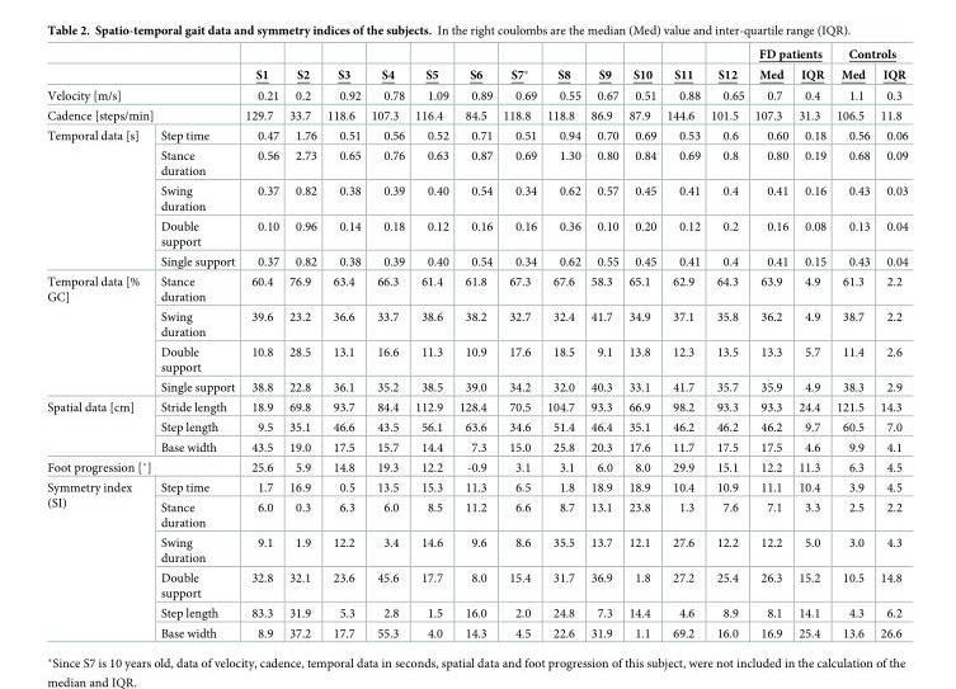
<table><thead><tr><td rowspan="2"></td><td rowspan="2"></td><td rowspan="2">S1</td><td rowspan="2">S2</td><td rowspan="2">S3</td><td rowspan="2">S4</td><td rowspan="2">S5</td><td rowspan="2">S6</td><td rowspan="2">S7*</td><td rowspan="2">S8</td><td rowspan="2">S9</td><td rowspan="2">S10</td><td rowspan="2">S11</td><td rowspan="2">S12</td><td colspan="2">FD patients</td><td colspan="2">Controls</td></tr><tr><td>Med</td><td>IQR</td><td>Med</td><td>IQR</td></tr></thead><tbody><tr><td colspan="2">Velocity [m/s]</td><td>0.21</td><td>0.2</td><td>0.92</td><td>0.78</td><td>1.09</td><td>0.89</td><td>0.69</td><td>0.55</td><td>0.67</td><td>0.51</td><td>0.88</td><td>0.65</td><td>0.7</td><td>0.4</td><td>1.1</td><td>0.3</td></tr><tr><td colspan="2">Cadence [steps/min]</td><td>129.7</td><td>33.7</td><td>118.6</td><td>107.3</td><td>116.4</td><td>84.5</td><td>118.8</td><td>118.8</td><td>86.9</td><td>87.9</td><td>144.6</td><td>101.5</td><td>107.3</td><td>31.3</td><td>106.5</td><td>11.8</td></tr><tr><td rowspan="5">Temporal data [s]</td><td>Step time</td><td>0.47</td><td>1.76</td><td>0.51</td><td>0.56</td><td>0.52</td><td>0.71</td><td>0.51</td><td>0.94</td><td>0.70</td><td>0.69</td><td>0.53</td><td>0.6</td><td>0.60</td><td>0.18</td><td>0.56</td><td>0.06</td></tr><tr><td>Stance duration</td><td>0.56</td><td>2.73</td><td>0.65</td><td>0.76</td><td>0.63</td><td>0.87</td><td>0.69</td><td>1.30</td><td>0.80</td><td>0.84</td><td>0.69</td><td>0.8</td><td>0.80</td><td>0.19</td><td>0.68</td><td>0.09</td></tr><tr><td>Swing duration</td><td>0.37</td><td>0.82</td><td>0.38</td><td>0.39</td><td>0.40</td><td>0.54</td><td>0.34</td><td>0.62</td><td>0.57</td><td>0.45</td><td>0.41</td><td>0.4</td><td>0.41</td><td>0.16</td><td>0.43</td><td>0.03</td></tr><tr><td>Double support</td><td>0.10</td><td>0.96</td><td>0.14</td><td>0.18</td><td>0.12</td><td>0.16</td><td>0.16</td><td>0.36</td><td>0.10</td><td>0.20</td><td>0.12</td><td>0.2</td><td>0.16</td><td>0.08</td><td>0.13</td><td>0.04</td></tr><tr><td>Single support</td><td>0.37</td><td>0.82</td><td>0.38</td><td>0.39</td><td>0.40</td><td>0.54</td><td>0.34</td><td>0.62</td><td>0.55</td><td>0.45</td><td>0.41</td><td>0.4</td><td>0.41</td><td>0.15</td><td>0.43</td><td>0.04</td></tr><tr><td rowspan="4">Temporal data [% GC]</td><td>Stance duration</td><td>60.4</td><td>76.9</td><td>63.4</td><td>66.3</td><td>61.4</td><td>61.8</td><td>67.3</td><td>67.6</td><td>58.3</td><td>65.1</td><td>62.9</td><td>64.3</td><td>63.9</td><td>4.9</td><td>61.3</td><td>2.2</td></tr><tr><td>Swing duration</td><td>39.6</td><td>23.2</td><td>36.6</td><td>33.7</td><td>38.6</td><td>38.2</td><td>32.7</td><td>32.4</td><td>41.7</td><td>34.9</td><td>37.1</td><td>35.8</td><td>36.2</td><td>4.9</td><td>38.7</td><td>2.2</td></tr><tr><td>Double support</td><td>10.8</td><td>28.5</td><td>13.1</td><td>16.6</td><td>11.3</td><td>10.9</td><td>17.6</td><td>18.5</td><td>9.1</td><td>13.8</td><td>12.3</td><td>13.5</td><td>13.3</td><td>5.7</td><td>11.4</td><td>2.6</td></tr><tr><td>Single support</td><td>38.8</td><td>22.8</td><td>36.1</td><td>35.2</td><td>38.5</td><td>39.0</td><td>34.2</td><td>32.0</td><td>40.3</td><td>33.1</td><td>41.7</td><td>35.7</td><td>35.9</td><td>4.9</td><td>38.3</td><td>2.9</td></tr><tr><td rowspan="3">Spatial data [cm]</td><td>Stride length</td><td>18.9</td><td>69.8</td><td>93.7</td><td>84.4</td><td>112.9</td><td>128.4</td><td>70.5</td><td>104.7</td><td>93.3</td><td>66.9</td><td>98.2</td><td>93.3</td><td>93.3</td><td>24.4</td><td>121.5</td><td>14.3</td></tr><tr><td>Step length</td><td>9.5</td><td>35.1</td><td>46.6</td><td>43.5</td><td>56.1</td><td>63.6</td><td>34.6</td><td>51.4</td><td>46.4</td><td>35.1</td><td>46.2</td><td>46.2</td><td>46.2</td><td>9.7</td><td>60.5</td><td>7.0</td></tr><tr><td>Base width</td><td>43.5</td><td>19.0</td><td>17.5</td><td>15.7</td><td>14.4</td><td>7.3</td><td>15.0</td><td>25.8</td><td>20.3</td><td>17.6</td><td>11.7</td><td>17.5</td><td>17.5</td><td>4.6</td><td>9.9</td><td>4.1</td></tr><tr><td colspan="2">Foot progression [˚]</td><td>25.6</td><td>5.9</td><td>14.8</td><td>19.3</td><td>12.2</td><td>-0.9</td><td>3.1</td><td>3.1</td><td>6.0</td><td>8.0</td><td>29.9</td><td>15.1</td><td>12.2</td><td>11.3</td><td>6.3</td><td>4.5</td></tr><tr><td rowspan="6">Symmetry index (SI)</td><td>Step time</td><td>1.7</td><td>16.9</td><td>0.5</td><td>13.5</td><td>15.3</td><td>11.3</td><td>6.5</td><td>1.8</td><td>18.9</td><td>18.9</td><td>10.4</td><td>10.9</td><td>11.1</td><td>10.4</td><td>3.9</td><td>4.5</td></tr><tr><td>Stance duration</td><td>6.0</td><td>0.3</td><td>6.3</td><td>6.0</td><td>8.5</td><td>11.2</td><td>6.6</td><td>8.7</td><td>13.1</td><td>23.8</td><td>1.3</td><td>7.6</td><td>7.1</td><td>3.3</td><td>2.5</td><td>2.2</td></tr><tr><td>Swing duration</td><td>9.1</td><td>1.9</td><td>12.2</td><td>3.4</td><td>14.6</td><td>9.6</td><td>8.6</td><td>35.5</td><td>13.7</td><td>12.1</td><td>27.6</td><td>12.2</td><td>12.2</td><td>5.0</td><td>3.0</td><td>4.3</td></tr><tr><td>Double support</td><td>32.8</td><td>32.1</td><td>23.6</td><td>45.6</td><td>17.7</td><td>8.0</td><td>15.4</td><td>31.7</td><td>36.9</td><td>1.8</td><td>27.2</td><td>25.4</td><td>26.3</td><td>15.2</td><td>10.5</td><td>14.8</td></tr><tr><td>Step length</td><td>83.3</td><td>31.9</td><td>5.3</td><td>2.8</td><td>1.5</td><td>16.0</td><td>2.0</td><td>24.8</td><td>7.3</td><td>14.4</td><td>4.6</td><td>8.9</td><td>8.1</td><td>14.1</td><td>4.3</td><td>6.2</td></tr><tr><td>Base width</td><td>8.9</td><td>37.2</td><td>17.7</td><td>55.3</td><td>4.0</td><td>14.3</td><td>4.5</td><td>22.6</td><td>31.9</td><td>1.1</td><td>69.2</td><td>16.0</td><td>16.9</td><td>25.4</td><td>13.6</td><td>26.6</td></tr></tbody></table>